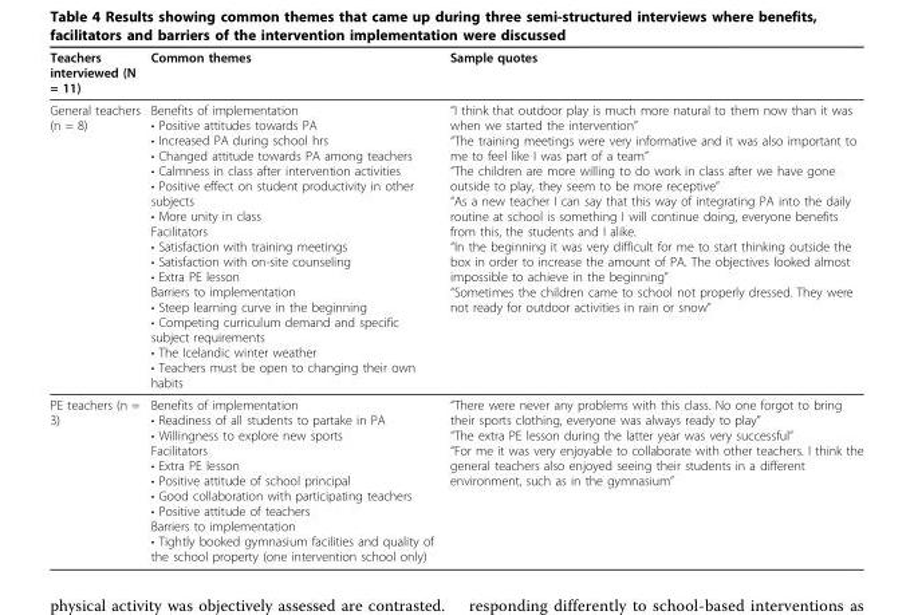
<table><thead><tr><td>Teachers interviewed (N = 11)</td><td>Common themes</td><td>Sample quotes</td></tr></thead><tbody><tr><td>General teachers (n = 8)</td><td>Benefits of implementation • Positive attitudes towards PA • Increased PA during school hrs • Changed attitude towards PA among teachers • Calmness in class after intervention activities • Positive effect on student productivity in other subjects • More unity in class Facilitators • Satisfaction with training meetings • Satisfaction with on-site counseling • Extra PE lesson Barriers to implementation • Steep learning curve in the beginning • Competing curriculum demand and specific subject requirements • The Icelandic winter weather • Teachers must be open to changing their own habits</td><td>“I think that outdoor play is much more natural to them now than it was when we started the intervention” “The training meetings were very informative and it was also important to me to feel like I was part of a team” “The children are more willing to do work in class after we have gone outside to play, they seem to be more receptive” “As a new teacher I can say that this way of integrating PA into the daily routine at school is something I will continue doing, everyone benefits from this, the students and I alike. “In the beginning it was very difficult for me to start thinking outside the box in order to increase the amount of PA. The objectives looked almost impossible to achieve in the beginning” “Sometimes the children came to school not properly dressed. They were not ready for outdoor activities in rain or snow”</td></tr><tr><td>PE teachers (n = 3)</td><td>Benefits of implementation • Readiness of all students to partake in PA • Willingness to explore new sports Facilitators • Extra PE lesson • Positive attitude of school principal • Good collaboration with participating teachers • Positive attitude of teachers Barriers to implementation • Tightly booked gymnasium facilities and quality of the school property (one intervention school only)</td><td>“There were never any problems with this class. No one forgot to bring their sports clothing, everyone was always ready to play” “The extra PE lesson during the latter year was very successful” “For me it was very enjoyable to collaborate with other teachers. I think the general teachers also enjoyed seeing their students in a different environment, such as in the gymnasium”</td></tr></tbody></table>